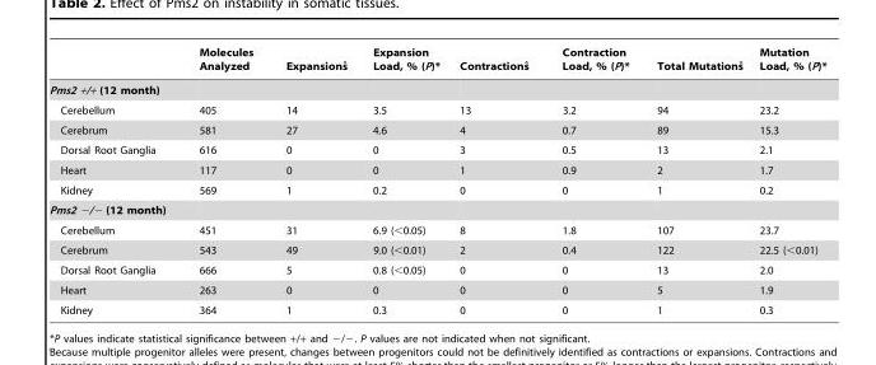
<table><thead><tr><td></td><td>Molecules Analyzed</td><td>Expansionsˆ</td><td>Expansion Load, % (P)*</td><td>Contractionsˆ</td><td>Contraction Load, % (P)*</td><td>Total Mutationsˆ</td><td>Mutation Load, % (P)*</td></tr></thead><tbody><tr><td colspan="8">Pms2 +/+ (12 month)</td></tr><tr><td>Cerebellum</td><td>405</td><td>14</td><td>3.5</td><td>13</td><td>3.2</td><td>94</td><td>23.2</td></tr><tr><td>Cerebrum</td><td>581</td><td>27</td><td>4.6</td><td>4</td><td>0.7</td><td>89</td><td>15.3</td></tr><tr><td>Dorsal Root Ganglia</td><td>616</td><td>0</td><td>0</td><td>3</td><td>0.5</td><td>13</td><td>2.1</td></tr><tr><td>Heart</td><td>117</td><td>0</td><td>0</td><td>1</td><td>0.9</td><td>2</td><td>1.7</td></tr><tr><td>Kidney</td><td>569</td><td>1</td><td>0.2</td><td>0</td><td>0</td><td>1</td><td>0.2</td></tr><tr><td colspan="8">Pms2 −/− (12 month)</td></tr><tr><td>Cerebellum</td><td>451</td><td>31</td><td>6.9 (&lt;0.05)</td><td>8</td><td>1.8</td><td>107</td><td>23.7</td></tr><tr><td>Cerebrum</td><td>543</td><td>49</td><td>9.0 (&lt;0.01)</td><td>2</td><td>0.4</td><td>122</td><td>22.5 (&lt;0.01)</td></tr><tr><td>Dorsal Root Ganglia</td><td>666</td><td>5</td><td>0.8 (&lt;0.05)</td><td>0</td><td>0</td><td>13</td><td>2.0</td></tr><tr><td>Heart</td><td>263</td><td>0</td><td>0</td><td>0</td><td>0</td><td>5</td><td>1.9</td></tr><tr><td>Kidney</td><td>364</td><td>1</td><td>0.3</td><td>0</td><td>0</td><td>1</td><td>0.3</td></tr></tbody></table>